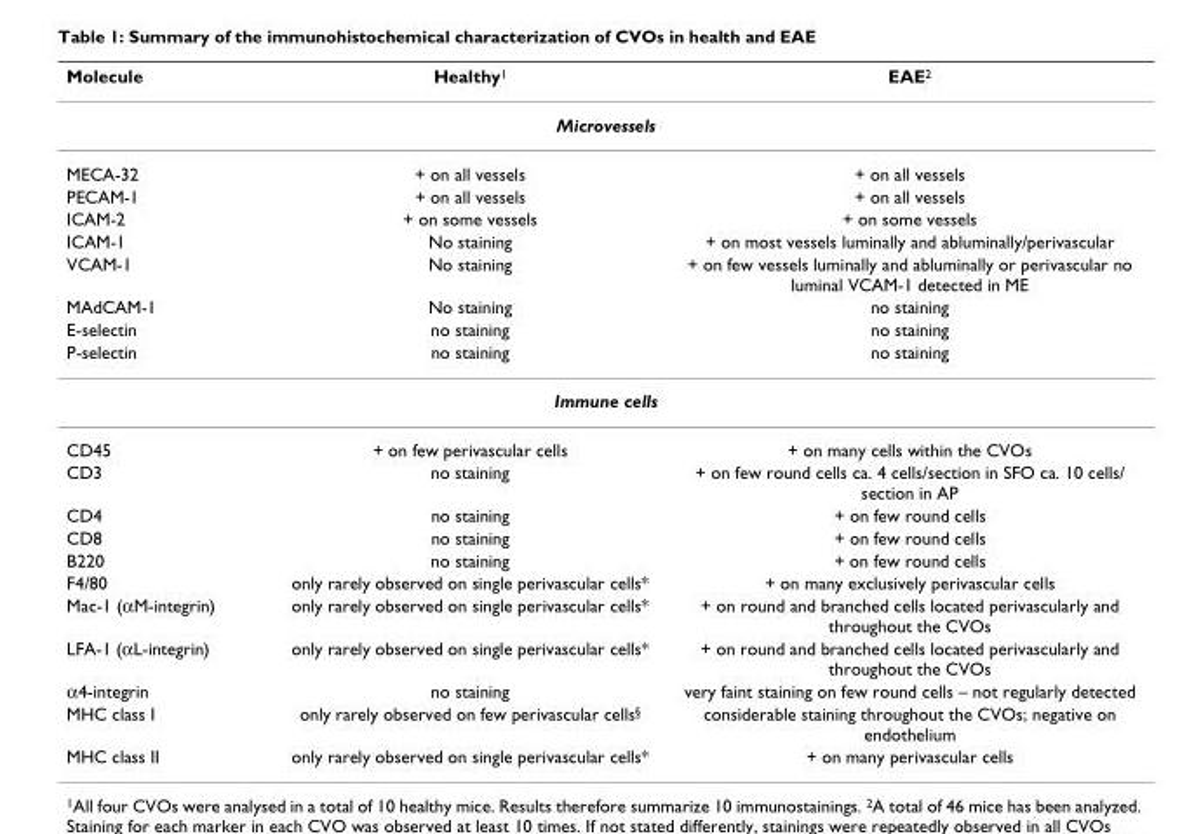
<table><thead><tr><td>Molecule</td><td>Healthy<sup>1</sup></td><td>EAE<sup>2</sup></td></tr></thead><tbody><tr><td colspan="3">Microvessels</td></tr><tr><td>MECA-32</td><td>+ on all vessels</td><td>+ on all vessels</td></tr><tr><td>PECAM-1</td><td>+ on all vessels</td><td>+ on all vessels</td></tr><tr><td>ICAM-2</td><td>+ on some vessels</td><td>+ on some vessels</td></tr><tr><td>ICAM-1</td><td>No staining</td><td>+ on most vessels luminally and abluminally/perivascular</td></tr><tr><td>VCAM-1</td><td>No staining</td><td>+ on few vessels luminally and abluminally or perivascular no luminal VCAM-1 detected in ME</td></tr><tr><td>MAdCAM-1</td><td>No staining</td><td>no staining</td></tr><tr><td>E-selectin</td><td>no staining</td><td>no staining</td></tr><tr><td>P-selectin</td><td>no staining</td><td>no staining</td></tr><tr><td colspan="3">Immune cells</td></tr><tr><td>CD45</td><td>+ on few perivascular cells</td><td>+ on many cells within the CVOs</td></tr><tr><td>CD3</td><td>no staining</td><td>+ on few round cells ca. 4 cells/section in SFO ca. 10 cells/ section in AP</td></tr><tr><td>CD4</td><td>no staining</td><td>+ on few round cells</td></tr><tr><td>CD8</td><td>no staining</td><td>+ on few round cells</td></tr><tr><td>B220</td><td>no staining</td><td>+ on few round cells</td></tr><tr><td>F4/80</td><td>only rarely observed on single perivascular cells*</td><td>+ on many exclusively perivascular cells</td></tr><tr><td>Mac-1 (αM-integrin)</td><td>only rarely observed on single perivascular cells*</td><td>+ on round and branched cells located perivascularly and throughout the CVOs</td></tr><tr><td>LFA-1 (αL-integrin)</td><td>only rarely observed on single perivascular cells*</td><td>+ on round and branched cells located perivascularly and throughout the CVOs</td></tr><tr><td>α4-integrin</td><td>no staining</td><td>very faint staining on few round cells – not regularly detected</td></tr><tr><td>MHC class I</td><td>only rarely observed on few perivascular cells<sup>§</sup></td><td>considerable staining throughout the CVOs; negative on endothelium</td></tr><tr><td>MHC class II</td><td>only rarely observed on single perivascular cells*</td><td>+ on many perivascular cells</td></tr></tbody></table>